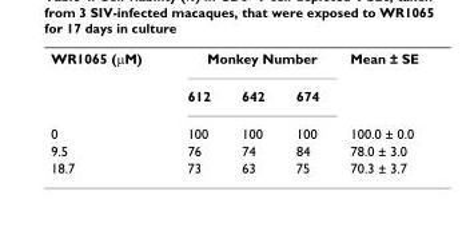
<table><tbody><tr><td rowspan="2">WR1065 (μM)</td><td colspan="3">Monkey Number</td><td>Mean ± SE</td></tr><tr><td>612</td><td>642</td><td>674</td><td></td></tr><tr><td>0</td><td>100</td><td>100</td><td>100</td><td>100.0 ± 0.0</td></tr><tr><td>9.5</td><td>76</td><td>74</td><td>84</td><td>78.0 ± 3.0</td></tr><tr><td>18.7</td><td>73</td><td>63</td><td>75</td><td>70.3 ± 3.7</td></tr></tbody></table>